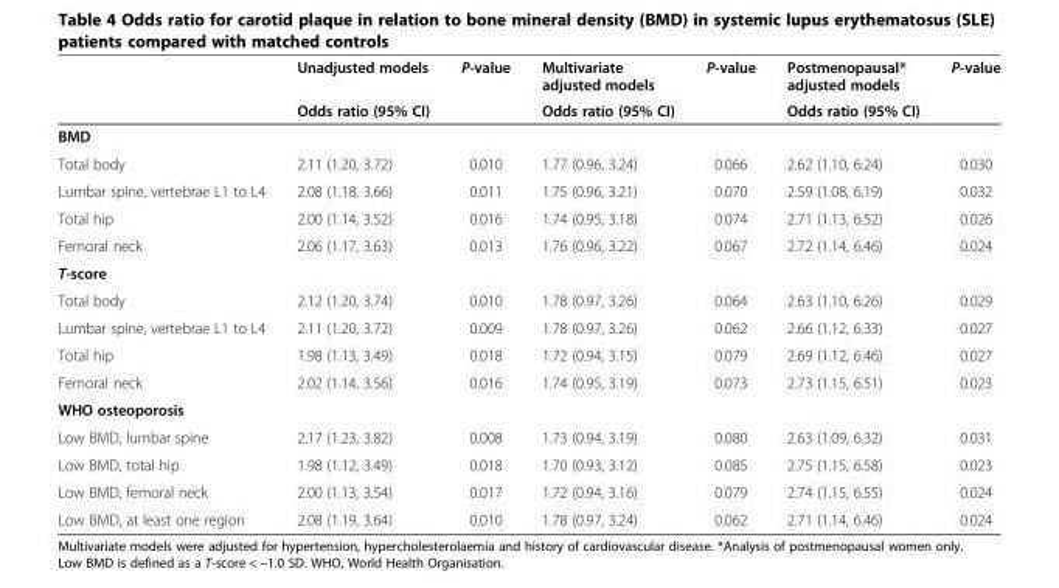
<table><thead><tr><td rowspan="2"></td><td rowspan="2">Unadjusted models Odds ratio (95% CI)</td><td rowspan="2">P-value</td><td rowspan="2">Multivariate adjusted models Odds ratio (95% CI)</td><td rowspan="2">P-value</td><td rowspan="2">Postmenopausal* adjusted models Odds ratio (95% CI)</td><td rowspan="2">P-value</td></tr><tr></tr></thead><tbody><tr><td colspan="7">BMD</td></tr><tr><td>Total body</td><td>2.11 (1.20, 3.72)</td><td>0.010</td><td>1.77 (0.96, 3.24)</td><td>0.066</td><td>2.62 (1.10, 6.24)</td><td>0.030</td></tr><tr><td>Lumbar spine, vertebrae L1 to L4</td><td>2.08 (1.18, 3.66)</td><td>0.011</td><td>1.75 (0.96, 3.21)</td><td>0.070</td><td>2.59 (1.08, 6.19)</td><td>0.032</td></tr><tr><td>Total hip</td><td>2.00 (1.14, 3.52)</td><td>0.016</td><td>1.74 (0.95, 3.18)</td><td>0.074</td><td>2.71 (1.13, 6.52)</td><td>0.026</td></tr><tr><td>Femoral neck</td><td>2.06 (1.17, 3.63)</td><td>0.013</td><td>1.76 (0.96, 3.22)</td><td>0.067</td><td>2.72 (1.14, 6.46)</td><td>0.024</td></tr><tr><td colspan="7">T-score</td></tr><tr><td>Total body</td><td>2.12 (1.20, 3.74)</td><td>0.010</td><td>1.78 (0.97, 3.26)</td><td>0.064</td><td>2.63 (1.10, 6.26)</td><td>0.029</td></tr><tr><td>Lumbar spine, vertebrae L1 to L4</td><td>2.11 (1.20, 3.72)</td><td>0.009</td><td>1.78 (0.97, 3.26)</td><td>0.062</td><td>2.66 (1.12, 6.33)</td><td>0.027</td></tr><tr><td>Total hip</td><td>1.98 (1.13, 3.49)</td><td>0.018</td><td>1.72 (0.94, 3.15)</td><td>0.079</td><td>2.69 (1.12, 6.46)</td><td>0.027</td></tr><tr><td>Femoral neck</td><td>2.02 (1.14, 3.56)</td><td>0.016</td><td>1.74 (0.95, 3.19)</td><td>0.073</td><td>2.73 (1.15, 6.51)</td><td>0.023</td></tr><tr><td colspan="7">WHO osteoporosis</td></tr><tr><td>Low BMD, lumbar spine</td><td>2.17 (1.23, 3.82)</td><td>0.008</td><td>1.73 (0.94, 3.19)</td><td>0.080</td><td>2.63 (1.09, 6.32)</td><td>0.031</td></tr><tr><td>Low BMD, total hip</td><td>1.98 (1.12, 3.49)</td><td>0.018</td><td>1.70 (0.93, 3.12)</td><td>0.085</td><td>2.75 (1.15, 6.58)</td><td>0.023</td></tr><tr><td>Low BMD, femoral neck</td><td>2.00 (1.13, 3.54)</td><td>0.017</td><td>1.72 (0.94, 3.16)</td><td>0.079</td><td>2.74 (1.15, 6.55)</td><td>0.024</td></tr><tr><td>Low BMD, at least one region</td><td>2.08 (1.19, 3.64)</td><td>0.010</td><td>1.78 (0.97, 3.24)</td><td>0.062</td><td>2.71 (1.14, 6.46)</td><td>0.024</td></tr></tbody></table>